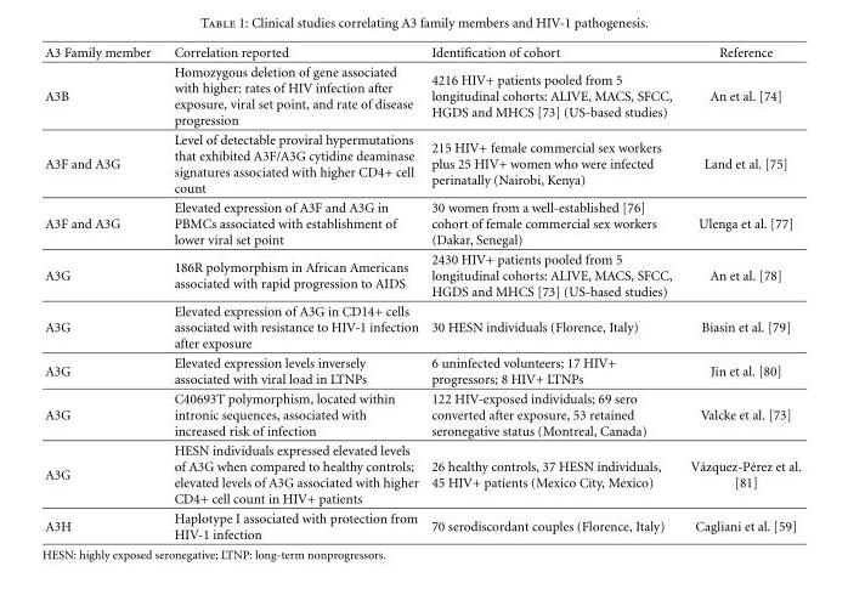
<table><thead><tr><td>A3 Family member</td><td>Correlation reported</td><td>Identification of cohort</td><td>Reference</td></tr></thead><tbody><tr><td>A3B</td><td>Homozygous deletion of gene associated with higher: rates of HIV infection after exposure, viral set point, and rate of disease progression</td><td>4216 HIV+ patients pooled from 5 longitudinal cohorts: ALIVE, MACS, SFCC, HGDS and MHCS [73] (US-based studies)</td><td>An et al. [74]</td></tr><tr><td>A3F and A3G</td><td>Level of detectable proviral hypermutations that exhibited A3F/A3G cytidine deaminase signatures associated with higher CD4+ cell count</td><td>215 HIV+ female commercial sex workers plus 25 HIV+ women who were infected perinatally (Nairobi, Kenya)</td><td>Land et al. [75]</td></tr><tr><td>A3F and A3G</td><td>Elevated expression of A3F and A3G in PBMCs associated with establishment of lower viral set point</td><td>30 women from a well-established [76] cohort of female commercial sex workers (Dakar, Senegal)</td><td>Ulenga et al. [77]</td></tr><tr><td>A3G</td><td>186R polymorphism in African Americans associated with rapid progression to AIDS</td><td>2430 HIV+ patients pooled from 5 longitudinal cohorts: ALIVE, MACS, SFCC, HGDS and MHCS [73] (US-based studies)</td><td>An et al. [78]</td></tr><tr><td>A3G</td><td>Elevated expression of A3G in CD14+ cells associated with resistance to HIV-1 infection after exposure</td><td>30 HESN individuals (Florence, Italy)</td><td>Biasin et al. [79]</td></tr><tr><td>A3G</td><td>Elevated expression levels inversely associated with viral load in LTNPs</td><td>6 uninfected volunteers; 17 HIV+ progressors; 8 HIV+ LTNPs</td><td>Jin et al. [80]</td></tr><tr><td>A3G</td><td>C40693T polymorphism, located within intronic sequences, associated with increased risk of infection</td><td>122 HIV-exposed individuals; 69 sero converted after exposure, 53 retained seronegative status (Montreal, Canada)</td><td>Valcke et al. [73]</td></tr><tr><td>A3G</td><td>HESN individuals expressed elevated levels of A3G when compared to healthy controls; elevated levels of A3G associated with higher CD4+ cell count in HIV+ patients</td><td>26 healthy controls, 37 HESN individuals, 45 HIV+ patients (Mexico City, Mexico)</td><td>V´azquez-P´erez et al. [81]</td></tr><tr><td>A3H</td><td>Haplotype I associated with protection from HIV-1 infection</td><td>70 serodiscordant couples (Florence, Italy)</td><td>Cagliani et al. [59]</td></tr></tbody></table>